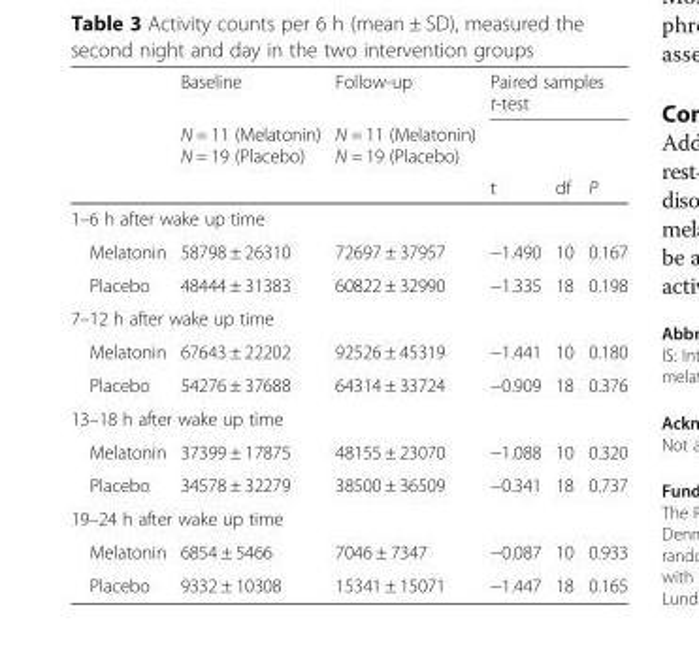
<table><thead><tr><td rowspan="3"></td><td rowspan="3">Baseline N = 11 (Melatonin) N = 19 (Placebo)</td><td rowspan="3">Follow-up N = 11 (Melatonin) N = 19 (Placebo)</td><td colspan="3">Paired samples t-test</td></tr><tr><td rowspan="2">t</td><td rowspan="2">df</td><td rowspan="2">P</td></tr><tr></tr></thead><tbody><tr><td colspan="6">1–6 h after wake up time</td></tr><tr><td>Melatonin</td><td>58798 ± 26310</td><td>72697 ± 37957</td><td>−1.490</td><td>10</td><td>0.167</td></tr><tr><td>Placebo</td><td>48444 ± 31383</td><td>60822 ± 32990</td><td>−1.335</td><td>18</td><td>0.198</td></tr><tr><td colspan="6">7–12 h after wake up time</td></tr><tr><td>Melatonin</td><td>67643 ± 22202</td><td>92526 ± 45319</td><td>−1.441</td><td>10</td><td>0.180</td></tr><tr><td>Placebo</td><td>54276 ± 37688</td><td>64314 ± 33724</td><td>−0.909</td><td>18</td><td>0.376</td></tr><tr><td colspan="6">13–18 h after wake up time</td></tr><tr><td>Melatonin</td><td>37399 ± 17875</td><td>48155 ± 23070</td><td>−1.088</td><td>10</td><td>0.320</td></tr><tr><td>Placebo</td><td>34578 ± 32279</td><td>38500 ± 36509</td><td>−0.341</td><td>18</td><td>0.737</td></tr><tr><td colspan="6">19–24 h after wake up time</td></tr><tr><td>Melatonin</td><td>6854 ± 5466</td><td>7046 ± 7347</td><td>−0.087</td><td>10</td><td>0.933</td></tr><tr><td>Placebo</td><td>9332 ± 10308</td><td>15341 ± 15071</td><td>−1.447</td><td>18</td><td>0.165</td></tr></tbody></table>